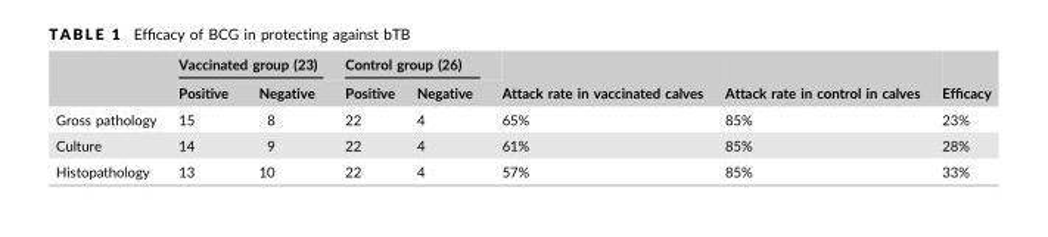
<table><thead><tr><td rowspan="2"></td><td colspan="2">Vaccinated group (23)</td><td colspan="2">Control group (26)</td><td rowspan="2">Attack rate in vaccinated calves</td><td rowspan="2">Attack rate in control in calves</td><td rowspan="2">Efficacy</td></tr><tr><td>Positive</td><td>Negative</td><td>Positive</td><td>Negative</td></tr></thead><tbody><tr><td>Gross pathology</td><td>15</td><td>8</td><td>22</td><td>4</td><td>65%</td><td>85%</td><td>23%</td></tr><tr><td>Culture</td><td>14</td><td>9</td><td>22</td><td>4</td><td>61%</td><td>85%</td><td>28%</td></tr><tr><td>Histopathology</td><td>13</td><td>10</td><td>22</td><td>4</td><td>57%</td><td>85%</td><td>33%</td></tr></tbody></table>